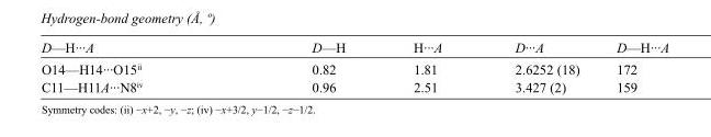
<table><tbody><tr><td>D—H···A</td><td>D—H</td><td>H···A</td><td>D···A</td><td>D—H···A</td></tr><tr><td>O14—H14···O15<sup>ii</sup></td><td>0.82</td><td>1.81</td><td>2.6252 (18)</td><td>172</td></tr><tr><td>C11—H11A···N8<sup>iv</sup></td><td>0.96</td><td>2.51</td><td>3.427 (2)</td><td>159</td></tr></tbody></table>